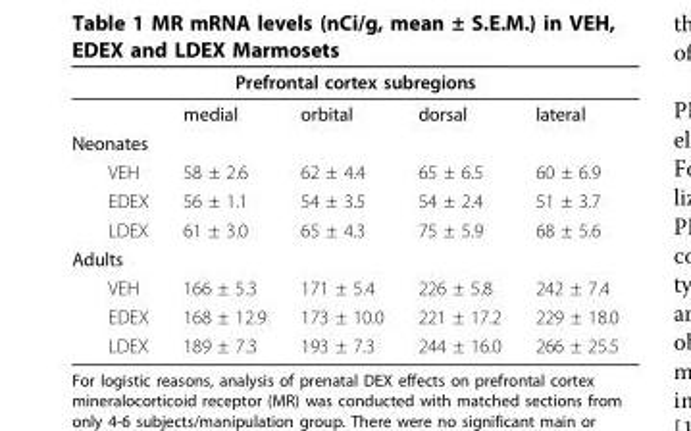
<table><thead><tr><td colspan="5">Prefrontal cortex subregions</td></tr><tr><td></td><td>medial</td><td>orbital</td><td>dorsal</td><td>lateral</td></tr></thead><tbody><tr><td colspan="5">Neonates</td></tr><tr><td>VEH</td><td>58 ± 2.6</td><td>62 ± 4.4</td><td>65 ± 6.5</td><td>60 ± 6.9</td></tr><tr><td>EDEX</td><td>56 ± 1.1</td><td>54 ± 3.5</td><td>54 ± 2.4</td><td>51 ± 3.7</td></tr><tr><td>LDEX</td><td>61 ± 3.0</td><td>65 ± 4.3</td><td>75 ± 5.9</td><td>68 ± 5.6</td></tr><tr><td colspan="5">Adults</td></tr><tr><td>VEH</td><td>166 ± 5.3</td><td>171 ± 5.4</td><td>226 ± 5.8</td><td>242 ± 7.4</td></tr><tr><td>EDEX</td><td>168 ± 12.9</td><td>173 ± 10.0</td><td>221 ± 17.2</td><td>229 ± 18.0</td></tr><tr><td>LDEX</td><td>189 ± 7.3</td><td>193 ± 7.3</td><td>244 ± 16.0</td><td>266 ± 25.5</td></tr></tbody></table>